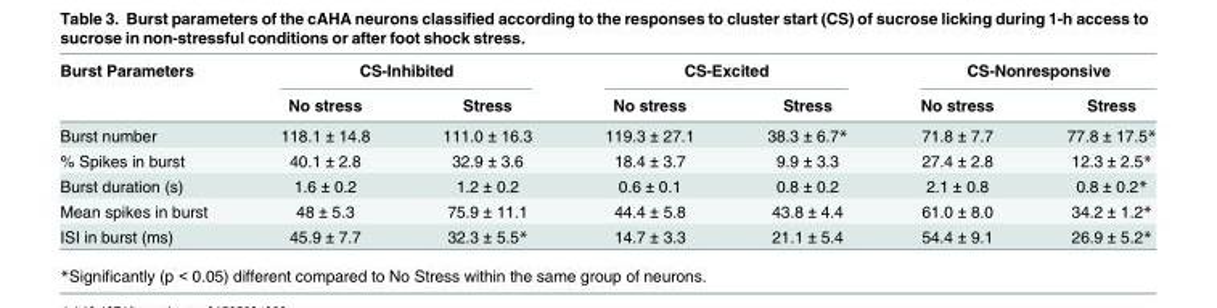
<table><thead><tr><td rowspan="2">Burst Parameters</td><td colspan="2">CS-Inhibited</td><td colspan="2">CS-Excited</td><td colspan="2">CS-Nonresponsive</td></tr><tr><td>No stress</td><td>Stress</td><td>No stress</td><td>Stress</td><td>No stress</td><td>Stress</td></tr></thead><tbody><tr><td>Burst number</td><td>118.1 ± 14.8</td><td>111.0 ± 16.3</td><td>119.3 ± 27.1</td><td>38.3 ± 6.7*</td><td>71.8 ± 7.7</td><td>77.8 ± 17.5*</td></tr><tr><td>% Spikes in burst</td><td>40.1 ± 2.8</td><td>32.9 ± 3.6</td><td>18.4 ± 3.7</td><td>9.9 ± 3.3</td><td>27.4 ± 2.8</td><td>12.3 ± 2.5*</td></tr><tr><td>Burst duration (s)</td><td>1.6 ± 0.2</td><td>1.2 ± 0.2</td><td>0.6 ± 0.1</td><td>0.8 ± 0.2</td><td>2.1 ± 0.8</td><td>0.8 ± 0.2*</td></tr><tr><td>Mean spikes in burst</td><td>48 ± 5.3</td><td>75.9 ± 11.1</td><td>44.4 ± 5.8</td><td>43.8 ± 4.4</td><td>61.0 ± 8.0</td><td>34.2 ± 1.2*</td></tr><tr><td>ISI in burst (ms)</td><td>45.9 ± 7.7</td><td>32.3 ± 5.5*</td><td>14.7 ± 3.3</td><td>21.1 ± 5.4</td><td>54.4 ± 9.1</td><td>26.9 ± 5.2*</td></tr></tbody></table>